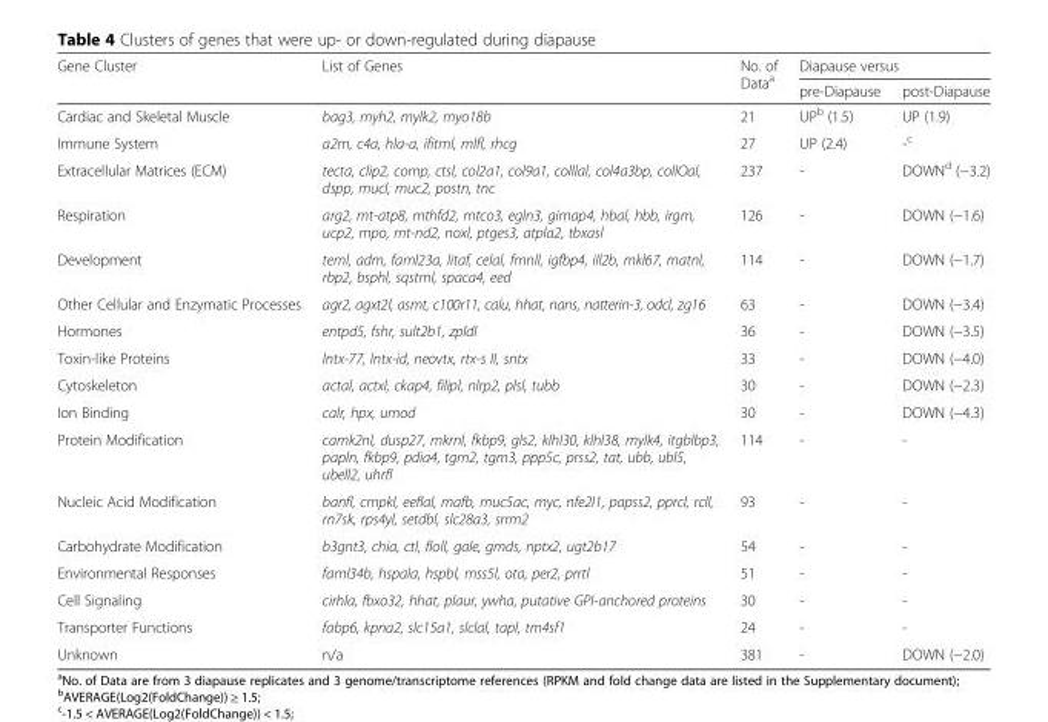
<table><thead><tr><td rowspan="2">Gene Cluster</td><td rowspan="2">List of Genes</td><td rowspan="2">No. of Data<sup>a</sup></td><td colspan="2">Diapause versus</td></tr><tr><td>pre-Diapause</td><td>post-Diapause</td></tr></thead><tbody><tr><td>Cardiac and Skeletal Muscle</td><td>bag3, myh2, mylk2, myo18b</td><td>21</td><td>UP<sup>b</sup> (1.5)</td><td>UP (1.9)</td></tr><tr><td>Immune System</td><td>a2m, c4a, hla-a, ifitml, mlfl, rhcg</td><td>27</td><td>UP (2.4)</td><td>-<sup>c</sup></td></tr><tr><td>Extracellular Matrices (ECM)</td><td>tecta, clip2, comp, ctsl, col2a1, col9a1, colllal, col4a3bp, collOal, dspp, mucl, muc2, postn, tnc</td><td>237</td><td>-</td><td>DOWN<sup>d</sup> (−3.2)</td></tr><tr><td>Respiration</td><td>arg2, mt-atp8, mthfd2, mtco3, egln3, gimap4, hbal, hbb, irgm, ucp2, mpo, mt-nd2, noxl, ptges3, atpla2, tbxasl</td><td>126</td><td>-</td><td>DOWN (−1.6)</td></tr><tr><td>Development</td><td>teml, adm, faml23a, litaf, celal, fmnll, igfbp4, ill2b, mkl67, matnl, rbp2, bsphl, sqstml, spaca4, eed</td><td>114</td><td>-</td><td>DOWN (−1.7)</td></tr><tr><td>Other Cellular and Enzymatic Processes</td><td>agr2, agxt2l, asmt, c100r11, calu, hhat, nans, natterin-3, odcl, zg16</td><td>63</td><td>-</td><td>DOWN (−3.4)</td></tr><tr><td>Hormones</td><td>entpd5, fshr, sult2b1, zpldl</td><td>36</td><td>-</td><td>DOWN (−3.5)</td></tr><tr><td>Toxin-like Proteins</td><td>lntx-77, lntx-id, neovtx, rtx-s II, sntx</td><td>33</td><td>-</td><td>DOWN (−4.0)</td></tr><tr><td>Cytoskeleton</td><td>actal, actxl, ckap4, filipl, nlrp2, plsl, tubb</td><td>30</td><td>-</td><td>DOWN (−2.3)</td></tr><tr><td>Ion Binding</td><td>calr, hpx, umod</td><td>30</td><td>-</td><td>DOWN (−4.3)</td></tr><tr><td>Protein Modification</td><td>camk2nl, dusp27, mkrnl, fkbp9, gls2, klhl30, klhl38, mylk4, itgblbp3, papln, fkbp9, pdia4, tgm2, tgm3, ppp5c, prss2, tat, ubb, ubl5, ubell2, uhrfl</td><td>114</td><td>-</td><td>-</td></tr><tr><td>Nucleic Acid Modification</td><td>banfl, cmpkl, eeflal, mafb, muc5ac, myc, nfe2l1, papss2, pprcl, rcll, rn7sk, rps4yl, setdbl, slc28a3, srrm2</td><td>93</td><td>-</td><td>-</td></tr><tr><td>Carbohydrate Modification</td><td>b3gnt3, chia, ctl, floll, gale, gmds, nptx2, ugt2b17</td><td>54</td><td>-</td><td>-</td></tr><tr><td>Environmental Responses</td><td>faml34b, hspala, hspbl, mss5l, ota, per2, prrtl</td><td>51</td><td>-</td><td>-</td></tr><tr><td>Cell Signaling</td><td>cirhla, fbxo32, hhat, plaur, ywha, putative GPI-anchored proteins</td><td>30</td><td>-</td><td>-</td></tr><tr><td>Transporter Functions</td><td>fabp6, kpna2, slc15a1, slclal, tapl, tm4sf1</td><td>24</td><td>-</td><td>-</td></tr><tr><td>Unknown</td><td>n/a</td><td>381</td><td>-</td><td>DOWN (−2.0)</td></tr></tbody></table>